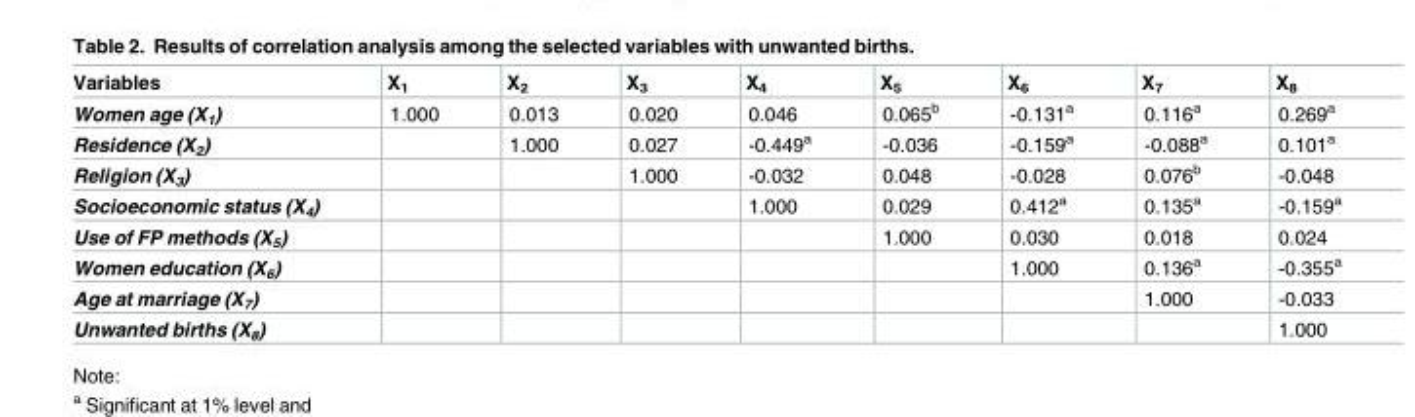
<table><thead><tr><td>Variables</td><td>X<sub>1</sub></td><td>X<sub>2</sub></td><td>X<sub>3</sub></td><td>X<sub>4</sub></td><td>X<sub>5</sub></td><td>X<sub>6</sub></td><td>X<sub>7</sub></td><td>X<sub>8</sub></td></tr></thead><tbody><tr><td>Women age (X<sub>1</sub>)</td><td>1.000</td><td>0.013</td><td>0.020</td><td>0.046</td><td>0.065<sup>b</sup></td><td>-0.131<sup>a</sup></td><td>0.116<sup>a</sup></td><td>0.269<sup>a</sup></td></tr><tr><td>Residence (X<sub>2</sub>)</td><td></td><td>1.000</td><td>0.027</td><td>-0.449<sup>a</sup></td><td>-0.036</td><td>-0.159<sup>a</sup></td><td>-0.088<sup>a</sup></td><td>0.101<sup>a</sup></td></tr><tr><td>Religion (X<sub>3</sub>)</td><td></td><td></td><td>1.000</td><td>-0.032</td><td>0.048</td><td>-0.028</td><td>0.076<sup>b</sup></td><td>-0.048</td></tr><tr><td>Socioeconomic status (X<sub>4</sub>)</td><td></td><td></td><td></td><td>1.000</td><td>0.029</td><td>0.412<sup>a</sup></td><td>0.135<sup>a</sup></td><td>-0.159<sup>a</sup></td></tr><tr><td>Use of FP methods (X<sub>5</sub>)</td><td></td><td></td><td></td><td></td><td>1.000</td><td>0.030</td><td>0.018</td><td>0.024</td></tr><tr><td>Women education (X<sub>6</sub>)</td><td></td><td></td><td></td><td></td><td></td><td>1.000</td><td>0.136<sup>a</sup></td><td>-0.355<sup>a</sup></td></tr><tr><td>Age at marriage (X<sub>7</sub>)</td><td></td><td></td><td></td><td></td><td></td><td></td><td>1.000</td><td>-0.033</td></tr><tr><td>Unwanted births (X<sub>8</sub>)</td><td></td><td></td><td></td><td></td><td></td><td></td><td></td><td>1.000</td></tr></tbody></table>